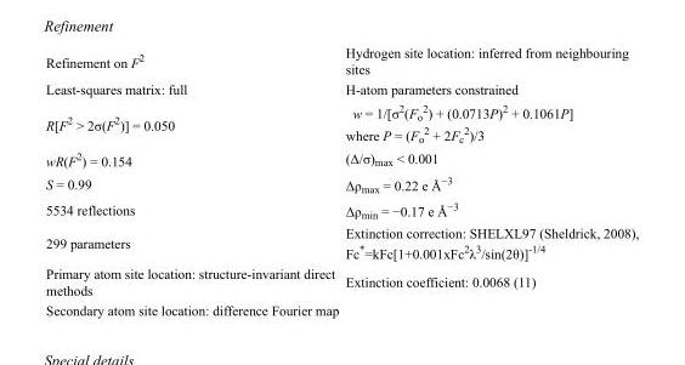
<table><tbody><tr><td>Refinement on F<sup>2</sup></td><td>Hydrogen site location: inferred from neighbouring sites</td></tr><tr><td>Least-squares matrix: full</td><td>H-atom parameters constrained</td></tr><tr><td>R[F<sup>2</sup> &gt; 2σ(F<sup>2</sup>)] = 0.050</td><td>w = 1/[σ<sup>2</sup>(F<sub>o</sub> <sup>2</sup>) + (0.0713P)<sup>2</sup> + 0.1061P] where P = (F<sub>o</sub> <sup>2</sup> + 2F<sub>c</sub> <sup>2</sup>)/3</td></tr><tr><td>wR(F<sup>2</sup>) = 0.154</td><td>(Δ/σ)<sub>max</sub> &lt; 0.001</td></tr><tr><td>S = 0.99</td><td>Δρ<sub>max</sub> = 0.22 e Å<sup>−3</sup></td></tr><tr><td>5534 reflections</td><td>Δρ<sub>min</sub> = −0.17 e Å<sup>−3</sup></td></tr><tr><td>299 parameters</td><td>Extinction correction: SHELXL97 (Sheldrick, 2008), Fc*=kFc[1+0.001xFc<sup>2</sup>λ<sup>3</sup>/sin(2θ)]<sup>-1/4</sup></td></tr><tr><td>Primary atom site location: structure-invariant direct methods</td><td>Extinction coefficient: 0.0068 (11)</td></tr><tr><td>Secondary atom site location: difference Fourier map</td><td></td></tr></tbody></table>